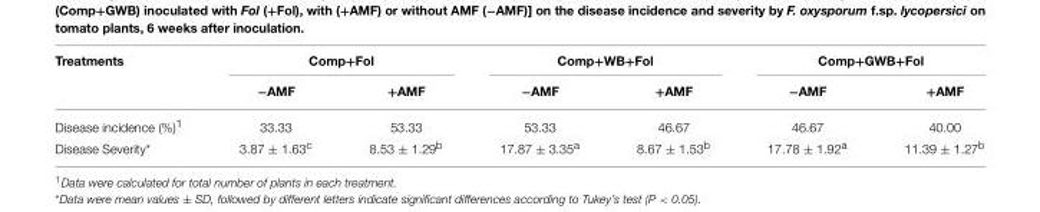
<table><thead><tr><td rowspan="2">Treatments</td><td colspan="2">Comp+Fol</td><td colspan="2">Comp+WB+Fol</td><td colspan="2">Comp+GWB+Fol</td></tr><tr><td>−AMF</td><td>+AMF</td><td>−AMF</td><td>+AMF</td><td>−AMF</td><td>+AMF</td></tr></thead><tbody><tr><td>Disease incidence (%)<sup>1</sup></td><td>33.33</td><td>53.33</td><td>53.33</td><td>46.67</td><td>46.67</td><td>40.00</td></tr><tr><td>Disease Severity*</td><td>3.87 ± 1.63<sup>c</sup></td><td>8.53 ± 1.29<sup>b</sup></td><td>17.87 ± 3.35<sup>a</sup></td><td>8.67 ± 1.53<sup>b</sup></td><td>17.78 ± 1.92<sup>a</sup></td><td>11.39 ± 1.27<sup>b</sup></td></tr></tbody></table>